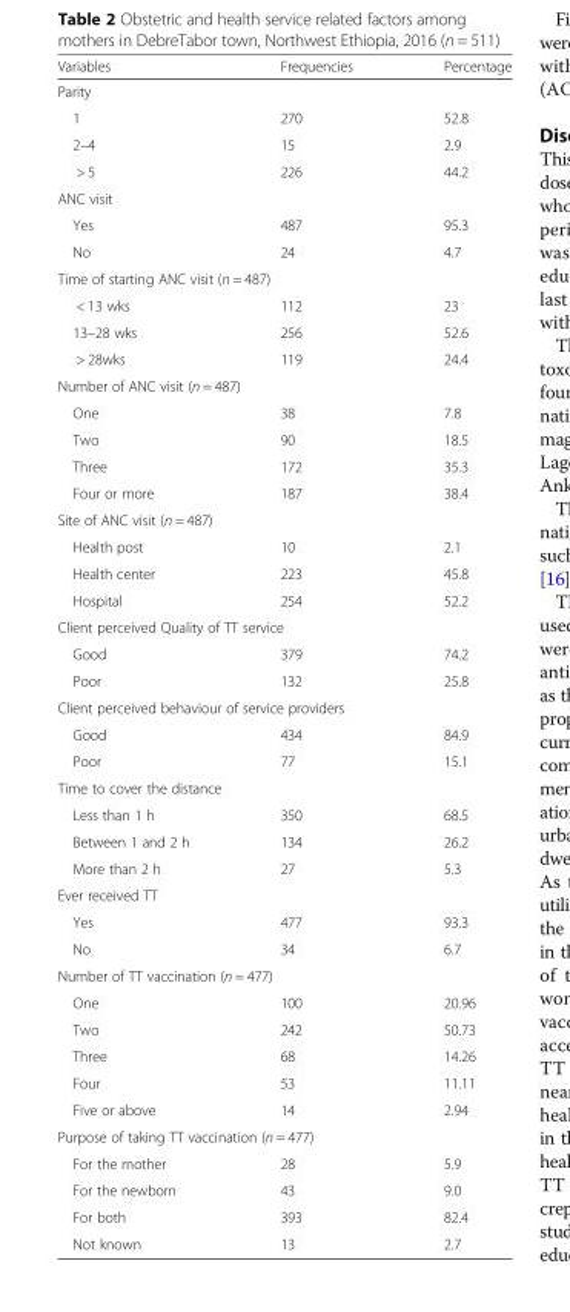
<table><thead><tr><td>Variables</td><td>Frequencies</td><td>Percentage</td></tr></thead><tbody><tr><td colspan="3">Parity</td></tr><tr><td>1</td><td>270</td><td>52.8</td></tr><tr><td>2–4</td><td>15</td><td>2.9</td></tr><tr><td>&gt; 5</td><td>226</td><td>44.2</td></tr><tr><td colspan="3">ANC visit</td></tr><tr><td>Yes</td><td>487</td><td>95.3</td></tr><tr><td>No</td><td>24</td><td>4.7</td></tr><tr><td colspan="3">Time of starting ANC visit (n = 487)</td></tr><tr><td>&lt; 13 wks</td><td>112</td><td>23</td></tr><tr><td>13–28 wks</td><td>256</td><td>52.6</td></tr><tr><td>&gt; 28wks</td><td>119</td><td>24.4</td></tr><tr><td colspan="3">Number of ANC visit (n = 487)</td></tr><tr><td>One</td><td>38</td><td>7.8</td></tr><tr><td>Two</td><td>90</td><td>18.5</td></tr><tr><td>Three</td><td>172</td><td>35.3</td></tr><tr><td>Four or more</td><td>187</td><td>38.4</td></tr><tr><td colspan="3">Site of ANC visit (n = 487)</td></tr><tr><td>Health post</td><td>10</td><td>2.1</td></tr><tr><td>Health center</td><td>223</td><td>45.8</td></tr><tr><td>Hospital</td><td>254</td><td>52.2</td></tr><tr><td colspan="3">Client perceived Quality of TT service</td></tr><tr><td>Good</td><td>379</td><td>74.2</td></tr><tr><td>Poor</td><td>132</td><td>25.8</td></tr><tr><td colspan="3">Client perceived behaviour of service providers</td></tr><tr><td>Good</td><td>434</td><td>84.9</td></tr><tr><td>Poor</td><td>77</td><td>15.1</td></tr><tr><td colspan="3">Time to cover the distance</td></tr><tr><td>Less than 1 h</td><td>350</td><td>68.5</td></tr><tr><td>Between 1 and 2 h</td><td>134</td><td>26.2</td></tr><tr><td>More than 2 h</td><td>27</td><td>5.3</td></tr><tr><td colspan="3">Ever received TT</td></tr><tr><td>Yes</td><td>477</td><td>93.3</td></tr><tr><td>No</td><td>34</td><td>6.7</td></tr><tr><td colspan="3">Number of TT vaccination (n = 477)</td></tr><tr><td>One</td><td>100</td><td>20.96</td></tr><tr><td>Two</td><td>242</td><td>50.73</td></tr><tr><td>Three</td><td>68</td><td>14.26</td></tr><tr><td>Four</td><td>53</td><td>11.11</td></tr><tr><td>Five or above</td><td>14</td><td>2.94</td></tr><tr><td colspan="3">Purpose of taking TT vaccination (n = 477)</td></tr><tr><td>For the mother</td><td>28</td><td>5.9</td></tr><tr><td>For the newborn</td><td>43</td><td>9.0</td></tr><tr><td>For both</td><td>393</td><td>82.4</td></tr><tr><td>Not known</td><td>13</td><td>2.7</td></tr></tbody></table>